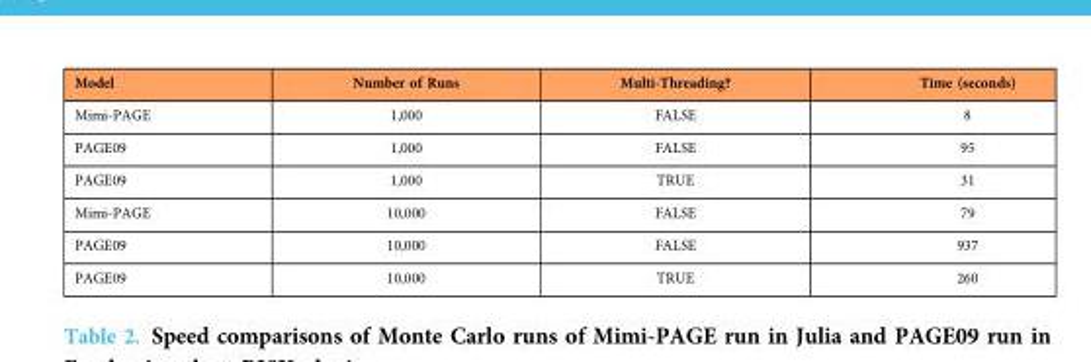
<table><thead><tr><td>Model</td><td>Number of Runs</td><td>Multi-Threading?</td><td>Time (seconds)</td></tr></thead><tbody><tr><td>Mimi-PAGE</td><td>1,000</td><td>FALSE</td><td>8</td></tr><tr><td>PAGE09</td><td>1,000</td><td>FALSE</td><td>95</td></tr><tr><td>PAGE09</td><td>1,000</td><td>TRUE</td><td>31</td></tr><tr><td>Mimi-PAGE</td><td>10,000</td><td>FALSE</td><td>79</td></tr><tr><td>PAGE09</td><td>10,000</td><td>FALSE</td><td>937</td></tr><tr><td>PAGE09</td><td>10,000</td><td>TRUE</td><td>260</td></tr></tbody></table>